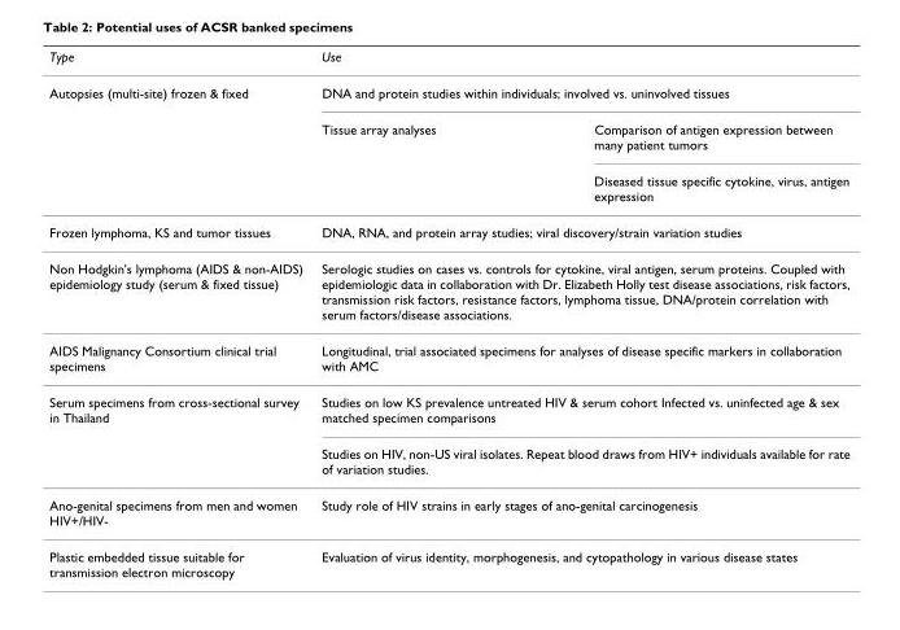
<table><thead><tr><td rowspan="3">Type Autopsies (multi-site) frozen &amp; fixed</td><td rowspan="2" colspan="2">Use DNA and protein studies within individuals; involved vs. uninvolved tissues</td></tr><tr></tr><tr><td>Tissue array analyses</td><td>Comparison of antigen expression between many patient tumors</td></tr></thead><tbody><tr><td></td><td></td><td>Diseased tissue specific cytokine, virus, antigen expression</td></tr><tr><td>Frozen lymphoma, KS and tumor tissues</td><td colspan="2">DNA, RNA, and protein array studies; viral discovery/strain variation studies</td></tr><tr><td>Non Hodgkin&#x27;s lymphoma (AIDS &amp; non-AIDS) epidemiology study (serum &amp; fixed tissue)</td><td colspan="2">Serologic studies on cases vs. controls for cytokine, viral antigen, serum proteins. Coupled with epidemiologic data in collaboration with Dr. Elizabeth Holly test disease associations, risk factors, transmission risk factors, resistance factors, lymphoma tissue, DNA/protein correlation with serum factors/disease associations.</td></tr><tr><td>AIDS Malignancy Consortium clinical trial specimens</td><td colspan="2">Longitudinal, trial associated specimens for analyses of disease specific markers in collaboration with AMC</td></tr><tr><td rowspan="2">Serum specimens from cross-sectional survey in Thailand</td><td colspan="2">Studies on low KS prevalence untreated HIV &amp; serum cohort Infected vs. uninfected age &amp; sex matched specimen comparisons</td></tr><tr><td colspan="2">Studies on HIV, non-US viral isolates. Repeat blood draws from HIV+ individuals available for rate of variation studies.</td></tr><tr><td>Ano-genital specimens from men and women HIV+/HIV-</td><td colspan="2">Study role of HIV strains in early stages of ano-genital carcinogenesis</td></tr><tr><td>Plastic embedded tissue suitable for transmission electron microscopy</td><td colspan="2">Evaluation of virus identity, morphogenesis, and cytopathology in various disease states</td></tr></tbody></table>